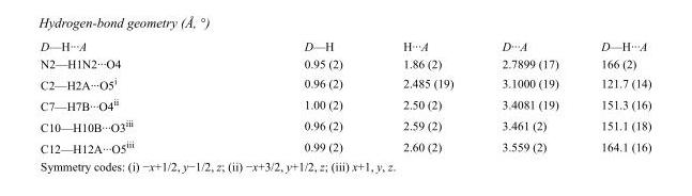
<table><tbody><tr><td>D—H···A</td><td>D—H</td><td>H···A</td><td>D···A</td><td>D—H···A</td></tr><tr><td>N2—H1N2···O4</td><td>0.95 (2)</td><td>1.86 (2)</td><td>2.7899 (17)</td><td>166 (2)</td></tr><tr><td>C2—H2A···O5<sup>i</sup></td><td>0.96 (2)</td><td>2.485 (19)</td><td>3.1000 (19)</td><td>121.7 (14)</td></tr><tr><td>C7—H7B···O4<sup>ii</sup></td><td>1.00 (2)</td><td>2.50 (2)</td><td>3.4081 (19)</td><td>151.3 (16)</td></tr><tr><td>C10—H10B···O3<sup>iii</sup></td><td>0.96 (2)</td><td>2.59 (2)</td><td>3.461 (2)</td><td>151.1 (18)</td></tr><tr><td>C12—H12A···O5<sup>iii</sup></td><td>0.99 (2)</td><td>2.60 (2)</td><td>3.559 (2)</td><td>164.1 (16)</td></tr></tbody></table>